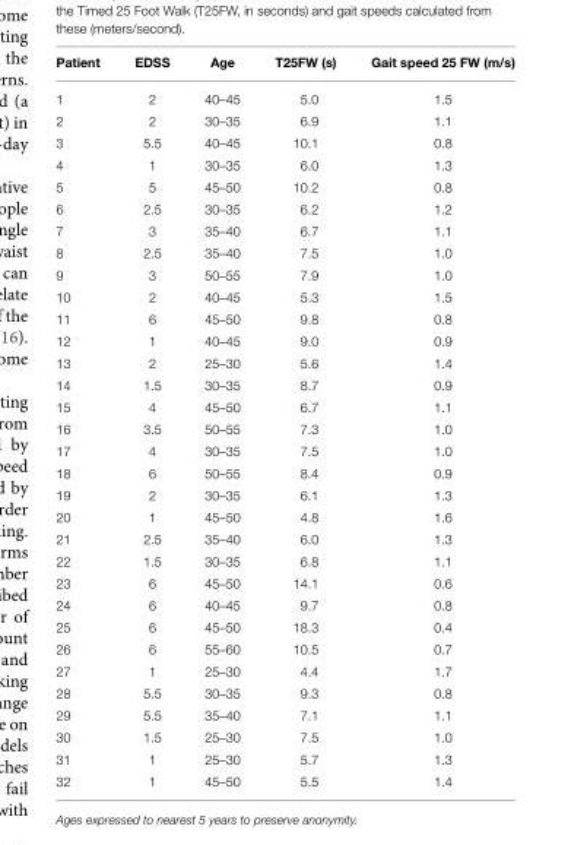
<table><thead><tr><td>Patient</td><td>EDSS</td><td>Age</td><td>T25FW (s)</td><td>Gait speed 25 FW (m/s)</td></tr></thead><tbody><tr><td>1</td><td>2</td><td>40–45</td><td>5.0</td><td>1.5</td></tr><tr><td>2</td><td>2</td><td>30–35</td><td>6.9</td><td>1.1</td></tr><tr><td>3</td><td>5.5</td><td>40–45</td><td>10.1</td><td>0.8</td></tr><tr><td>4</td><td>1</td><td>30–35</td><td>6.0</td><td>1.3</td></tr><tr><td>5</td><td>5</td><td>45–50</td><td>10.2</td><td>0.8</td></tr><tr><td>6</td><td>2.5</td><td>30–35</td><td>6.2</td><td>1.2</td></tr><tr><td>7</td><td>3</td><td>35–40</td><td>6.7</td><td>1.1</td></tr><tr><td>8</td><td>2.5</td><td>35–40</td><td>7.5</td><td>1.0</td></tr><tr><td>9</td><td>3</td><td>50–55</td><td>7.9</td><td>1.0</td></tr><tr><td>10</td><td>2</td><td>40–45</td><td>5.3</td><td>1.5</td></tr><tr><td>11</td><td>6</td><td>45–50</td><td>9.8</td><td>0.8</td></tr><tr><td>12</td><td>1</td><td>40–45</td><td>9.0</td><td>0.9</td></tr><tr><td>13</td><td>2</td><td>25–30</td><td>5.6</td><td>1.4</td></tr><tr><td>14</td><td>1.5</td><td>30–35</td><td>8.7</td><td>0.9</td></tr><tr><td>15</td><td>4</td><td>45–50</td><td>6.7</td><td>1.1</td></tr><tr><td>16</td><td>3.5</td><td>50–55</td><td>7.3</td><td>1.0</td></tr><tr><td>17</td><td>4</td><td>30–35</td><td>7.5</td><td>1.0</td></tr><tr><td>18</td><td>6</td><td>50–55</td><td>8.4</td><td>0.9</td></tr><tr><td>19</td><td>2</td><td>30–35</td><td>6.1</td><td>1.3</td></tr><tr><td>20</td><td>1</td><td>45–50</td><td>4.8</td><td>1.6</td></tr><tr><td>21</td><td>2.5</td><td>35–40</td><td>6.0</td><td>1.3</td></tr><tr><td>22</td><td>1.5</td><td>30–35</td><td>6.8</td><td>1.1</td></tr><tr><td>23</td><td>6</td><td>45–50</td><td>14.1</td><td>0.6</td></tr><tr><td>24</td><td>6</td><td>40–45</td><td>9.7</td><td>0.8</td></tr><tr><td>25</td><td>6</td><td>45–50</td><td>18.3</td><td>0.4</td></tr><tr><td>26</td><td>6</td><td>55–60</td><td>10.5</td><td>0.7</td></tr><tr><td>27</td><td>1</td><td>25–30</td><td>4.4</td><td>1.7</td></tr><tr><td>28</td><td>5.5</td><td>30–35</td><td>9.3</td><td>0.8</td></tr><tr><td>29</td><td>5.5</td><td>35–40</td><td>7.1</td><td>1.1</td></tr><tr><td>30</td><td>1.5</td><td>25–30</td><td>7.5</td><td>1.0</td></tr><tr><td>31</td><td>1</td><td>25–30</td><td>5.7</td><td>1.3</td></tr><tr><td>32</td><td>1</td><td>45–50</td><td>5.5</td><td>1.4</td></tr></tbody></table>